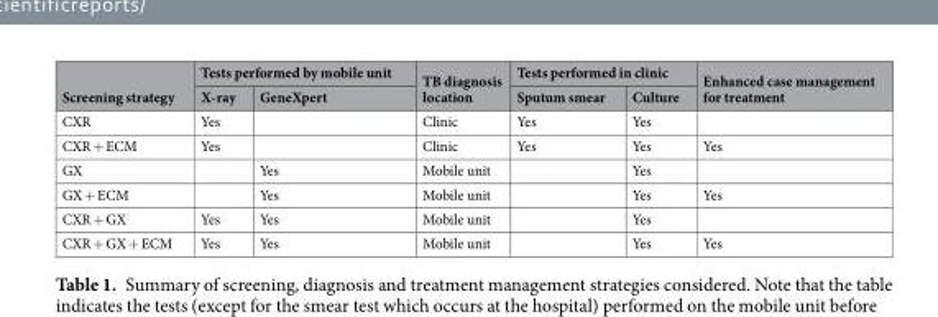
<table><thead><tr><td rowspan="2">Screening strategy</td><td colspan="2">Tests performed by mobile unit</td><td rowspan="2">TB diagnosis location</td><td colspan="2">Tests performed in clinic</td><td rowspan="2">Enhanced case management for treatment</td></tr><tr><td>X-ray</td><td>GeneXpert</td><td>Sputum smear</td><td>Culture</td></tr></thead><tbody><tr><td>CXR</td><td>Yes</td><td></td><td>Clinic</td><td>Yes</td><td>Yes</td><td></td></tr><tr><td>CXR + ECM</td><td>Yes</td><td></td><td>Clinic</td><td>Yes</td><td>Yes</td><td>Yes</td></tr><tr><td>GX</td><td></td><td>Yes</td><td>Mobile unit</td><td></td><td>Yes</td><td></td></tr><tr><td>GX + ECM</td><td></td><td>Yes</td><td>Mobile unit</td><td></td><td>Yes</td><td>Yes</td></tr><tr><td>CXR + GX</td><td>Yes</td><td>Yes</td><td>Mobile unit</td><td></td><td>Yes</td><td></td></tr><tr><td>CXR + GX + ECM</td><td>Yes</td><td>Yes</td><td>Mobile unit</td><td></td><td>Yes</td><td>Yes</td></tr></tbody></table>